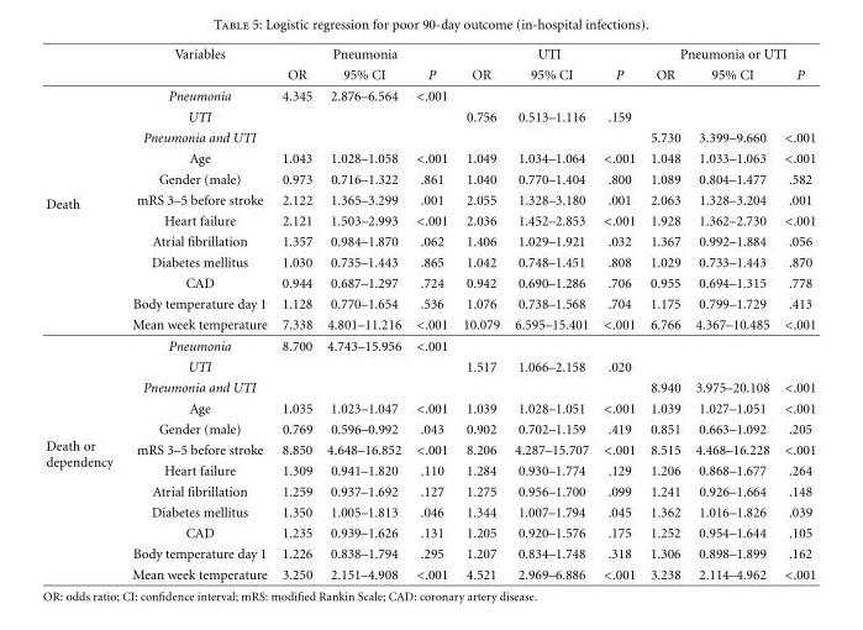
<table><thead><tr><td rowspan="2"></td><td rowspan="2">Variables</td><td colspan="3">Pneumonia</td><td colspan="3">UTI</td><td colspan="3">Pneumonia or UTI</td></tr><tr><td>OR</td><td>95% CI</td><td>P</td><td>OR</td><td>95% CI</td><td>P</td><td>OR</td><td>95% CI</td><td>P</td></tr></thead><tbody><tr><td rowspan="12">Death</td><td>Pneumonia</td><td>4.345</td><td>2.876–6.564</td><td>&lt;.001</td><td></td><td></td><td></td><td></td><td></td><td></td></tr><tr><td>UTI</td><td></td><td></td><td></td><td>0.756</td><td>0.513–1.116</td><td>.159</td><td></td><td></td><td></td></tr><tr><td>Pneumonia and UTI</td><td></td><td></td><td></td><td></td><td></td><td></td><td>5.730</td><td>3.399–9.660</td><td>&lt;.001</td></tr><tr><td>Age</td><td>1.043</td><td>1.028–1.058</td><td>&lt;.001</td><td>1.049</td><td>1.034–1.064</td><td>&lt;.001</td><td>1.048</td><td>1.033–1.063</td><td>&lt;.001</td></tr><tr><td>Gender (male)</td><td>0.973</td><td>0.716–1.322</td><td>.861</td><td>1.040</td><td>0.770–1.404</td><td>.800</td><td>1.089</td><td>0.804–1.477</td><td>.582</td></tr><tr><td>mRS 3–5 before stroke</td><td>2.122</td><td>1.365–3.299</td><td>.001</td><td>2.055</td><td>1.328–3.180</td><td>.001</td><td>2.063</td><td>1.328–3.204</td><td>.001</td></tr><tr><td>Heart failure</td><td>2.121</td><td>1.503–2.993</td><td>&lt;.001</td><td>2.036</td><td>1.452–2.853</td><td>&lt;.001</td><td>1.928</td><td>1.362–2.730</td><td>&lt;.001</td></tr><tr><td>Atrial fibrillation</td><td>1.357</td><td>0.984–1.870</td><td>.062</td><td>1.406</td><td>1.029–1.921</td><td>.032</td><td>1.367</td><td>0.992–1.884</td><td>.056</td></tr><tr><td>Diabetes mellitus</td><td>1.030</td><td>0.735–1.443</td><td>.865</td><td>1.042</td><td>0.748–1.451</td><td>.808</td><td>1.029</td><td>0.733–1.443</td><td>.870</td></tr><tr><td>CAD</td><td>0.944</td><td>0.687–1.297</td><td>.724</td><td>0.942</td><td>0.690–1.286</td><td>.706</td><td>0.955</td><td>0.694–1.315</td><td>.778</td></tr><tr><td>Body temperature day 1</td><td>1.128</td><td>0.770–1.654</td><td>.536</td><td>1.076</td><td>0.738–1.568</td><td>.704</td><td>1.175</td><td>0.799–1.729</td><td>.413</td></tr><tr><td>Mean week temperature</td><td>7.338</td><td>4.801–11.216</td><td>&lt;.001</td><td>10.079</td><td>6.595–15.401</td><td>&lt;.001</td><td>6.766</td><td>4.367–10.485</td><td>&lt;.001</td></tr><tr><td rowspan="12">Death or dependency</td><td>Pneumonia</td><td>8.700</td><td>4.743–15.956</td><td>&lt;.001</td><td></td><td></td><td></td><td></td><td></td><td></td></tr><tr><td>UTI</td><td></td><td></td><td></td><td>1.517</td><td>1.066–2.158</td><td>.020</td><td></td><td></td><td></td></tr><tr><td>Pneumonia and UTI</td><td></td><td></td><td></td><td></td><td></td><td></td><td>8.940</td><td>3.975–20.108</td><td>&lt;.001</td></tr><tr><td>Age</td><td>1.035</td><td>1.023–1.047</td><td>&lt;.001</td><td>1.039</td><td>1.028–1.051</td><td>&lt;.001</td><td>1.039</td><td>1.027–1.051</td><td>&lt;.001</td></tr><tr><td>Gender (male)</td><td>0.769</td><td>0.596–0.992</td><td>.043</td><td>0.902</td><td>0.702–1.159</td><td>.419</td><td>0.851</td><td>0.663–1.092</td><td>.205</td></tr><tr><td>mRS 3–5 before stroke</td><td>8.850</td><td>4.648–16.852</td><td>&lt;.001</td><td>8.206</td><td>4.287–15.707</td><td>&lt;.001</td><td>8.515</td><td>4.468–16.228</td><td>&lt;.001</td></tr><tr><td>Heart failure</td><td>1.309</td><td>0.941–1.820</td><td>.110</td><td>1.284</td><td>0.930–1.774</td><td>.129</td><td>1.206</td><td>0.868–1.677</td><td>.264</td></tr><tr><td>Atrial fibrillation</td><td>1.259</td><td>0.937–1.692</td><td>.127</td><td>1.275</td><td>0.956–1.700</td><td>.099</td><td>1.241</td><td>0.926–1.664</td><td>.148</td></tr><tr><td>Diabetes mellitus</td><td>1.350</td><td>1.005–1.813</td><td>.046</td><td>1.344</td><td>1.007–1.794</td><td>.045</td><td>1.362</td><td>1.016–1.826</td><td>.039</td></tr><tr><td>CAD</td><td>1.235</td><td>0.939–1.626</td><td>.131</td><td>1.205</td><td>0.920–1.576</td><td>.175</td><td>1.252</td><td>0.954–1.644</td><td>.105</td></tr><tr><td>Body temperature day 1</td><td>1.226</td><td>0.838–1.794</td><td>.295</td><td>1.207</td><td>0.834–1.748</td><td>.318</td><td>1.306</td><td>0.898–1.899</td><td>.162</td></tr><tr><td>Mean week temperature</td><td>3.250</td><td>2.151–4.908</td><td>&lt;.001</td><td>4.521</td><td>2.969–6.886</td><td>&lt;.001</td><td>3.238</td><td>2.114–4.962</td><td>&lt;.001</td></tr></tbody></table>